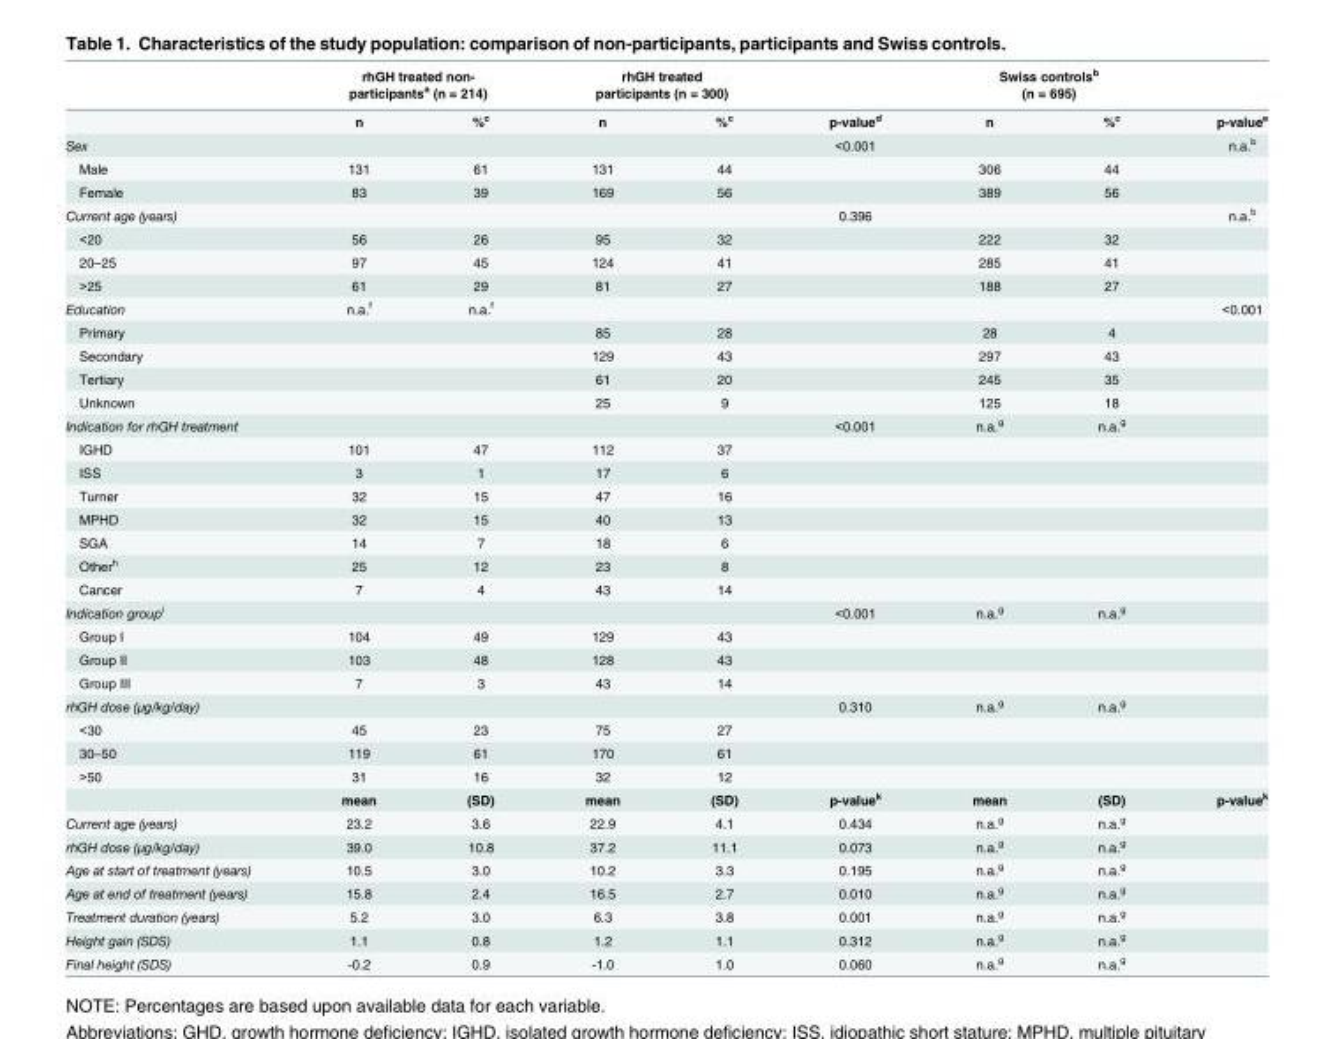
<table><thead><tr><td rowspan="2"></td><td colspan="2">rhGH treated non- participants<sup>a</sup> (n = 214)</td><td colspan="2">rhGH treated participants (n = 300)</td><td rowspan="2">p-value<sup>d</sup></td><td colspan="2">Swiss controls<sup>b</sup> (n = 695)</td><td rowspan="2">p-value<sup>e</sup></td></tr><tr><td>n</td><td>%<sup>c</sup></td><td>n</td><td>%<sup>c</sup></td><td>n</td><td>%<sup>c</sup></td></tr></thead><tbody><tr><td>Sex</td><td></td><td></td><td></td><td></td><td>&lt;0.001</td><td></td><td></td><td>n.a.<sup>b</sup></td></tr><tr><td>Male</td><td>131</td><td>61</td><td>131</td><td>44</td><td></td><td>306</td><td>44</td><td></td></tr><tr><td>Female</td><td>83</td><td>39</td><td>169</td><td>56</td><td></td><td>389</td><td>56</td><td></td></tr><tr><td>Current age (years)</td><td></td><td></td><td></td><td></td><td>0.396</td><td></td><td></td><td>n.a.<sup>b</sup></td></tr><tr><td>&lt;20</td><td>56</td><td>26</td><td>95</td><td>32</td><td></td><td>222</td><td>32</td><td></td></tr><tr><td>20–25</td><td>97</td><td>45</td><td>124</td><td>41</td><td></td><td>285</td><td>41</td><td></td></tr><tr><td>&gt;25</td><td>61</td><td>29</td><td>81</td><td>27</td><td></td><td>188</td><td>27</td><td></td></tr><tr><td>Education</td><td>n.a.<sup>f</sup></td><td>n.a.<sup>f</sup></td><td></td><td></td><td></td><td></td><td></td><td>&lt;0.001</td></tr><tr><td>Primary</td><td></td><td></td><td>85</td><td>28</td><td></td><td>28</td><td>4</td><td></td></tr><tr><td>Secondary</td><td></td><td></td><td>129</td><td>43</td><td></td><td>297</td><td>43</td><td></td></tr><tr><td>Tertiary</td><td></td><td></td><td>61</td><td>20</td><td></td><td>245</td><td>35</td><td></td></tr><tr><td>Unknown</td><td></td><td></td><td>25</td><td>9</td><td></td><td>125</td><td>18</td><td></td></tr><tr><td>Indication for rhGH treatment</td><td></td><td></td><td></td><td></td><td>&lt;0.001</td><td>n.a.<sup>g</sup></td><td>n.a.<sup>g</sup></td><td></td></tr><tr><td>IGHD</td><td>101</td><td>47</td><td>112</td><td>37</td><td></td><td></td><td></td><td></td></tr><tr><td>ISS</td><td>3</td><td>1</td><td>17</td><td>6</td><td></td><td></td><td></td><td></td></tr><tr><td>Turner</td><td>32</td><td>15</td><td>47</td><td>16</td><td></td><td></td><td></td><td></td></tr><tr><td>MPHD</td><td>32</td><td>15</td><td>40</td><td>13</td><td></td><td></td><td></td><td></td></tr><tr><td>SGA</td><td>14</td><td>7</td><td>18</td><td>6</td><td></td><td></td><td></td><td></td></tr><tr><td>Other<sup>h</sup></td><td>25</td><td>12</td><td>23</td><td>8</td><td></td><td></td><td></td><td></td></tr><tr><td>Cancer</td><td>7</td><td>4</td><td>43</td><td>14</td><td></td><td></td><td></td><td></td></tr><tr><td>Indication group<sup>i</sup></td><td></td><td></td><td></td><td></td><td>&lt;0.001</td><td>n.a.<sup>g</sup></td><td>n.a.<sup>g</sup></td><td></td></tr><tr><td>Group I</td><td>104</td><td>49</td><td>129</td><td>43</td><td></td><td></td><td></td><td></td></tr><tr><td>Group II</td><td>103</td><td>48</td><td>128</td><td>43</td><td></td><td></td><td></td><td></td></tr><tr><td>Group III</td><td>7</td><td>3</td><td>43</td><td>14</td><td></td><td></td><td></td><td></td></tr><tr><td>rhGH dose (μg/kg/day)</td><td></td><td></td><td></td><td></td><td>0.310</td><td>n.a.<sup>g</sup></td><td>n.a.<sup>g</sup></td><td></td></tr><tr><td>&lt;30</td><td>45</td><td>23</td><td>75</td><td>27</td><td></td><td></td><td></td><td></td></tr><tr><td>30–50</td><td>119</td><td>61</td><td>170</td><td>61</td><td></td><td></td><td></td><td></td></tr><tr><td rowspan="2">&gt;50</td><td>31</td><td>16</td><td>32</td><td>12</td><td></td><td></td><td></td><td></td></tr><tr><td>mean</td><td>(SD)</td><td>mean</td><td>(SD)</td><td>p-value<sup>k</sup></td><td>mean</td><td>(SD)</td><td>p-value<sup>k</sup></td></tr><tr><td>Current age (years)</td><td>23.2</td><td>3.6</td><td>22.9</td><td>4.1</td><td>0.434</td><td>n.a.<sup>g</sup></td><td>n.a.<sup>g</sup></td><td></td></tr><tr><td>rhGH dose (μg/kg/day)</td><td>39.0</td><td>10.8</td><td>37.2</td><td>11.1</td><td>0.073</td><td>n.a.<sup>g</sup></td><td>n.a.<sup>g</sup></td><td></td></tr><tr><td>Age at start of treatment (years)</td><td>10.5</td><td>3.0</td><td>10.2</td><td>3.3</td><td>0.195</td><td>n.a.<sup>g</sup></td><td>n.a.<sup>g</sup></td><td></td></tr><tr><td>Age at end of treatment (years)</td><td>15.8</td><td>2.4</td><td>16.5</td><td>2.7</td><td>0.010</td><td>n.a.<sup>g</sup></td><td>n.a.<sup>g</sup></td><td></td></tr><tr><td>Treatment duration (years)</td><td>5.2</td><td>3.0</td><td>6.3</td><td>3.8</td><td>0.001</td><td>n.a.<sup>g</sup></td><td>n.a.<sup>g</sup></td><td></td></tr><tr><td>Height gain (SDS)</td><td>1.1</td><td>0.8</td><td>1.2</td><td>1.1</td><td>0.312</td><td>n.a.<sup>g</sup></td><td>n.a.<sup>g</sup></td><td></td></tr><tr><td>Final height (SDS)</td><td>-0.2</td><td>0.9</td><td>-1.0</td><td>1.0</td><td>0.060</td><td>n.a.<sup>g</sup></td><td>n.a.<sup>g</sup></td><td></td></tr></tbody></table>